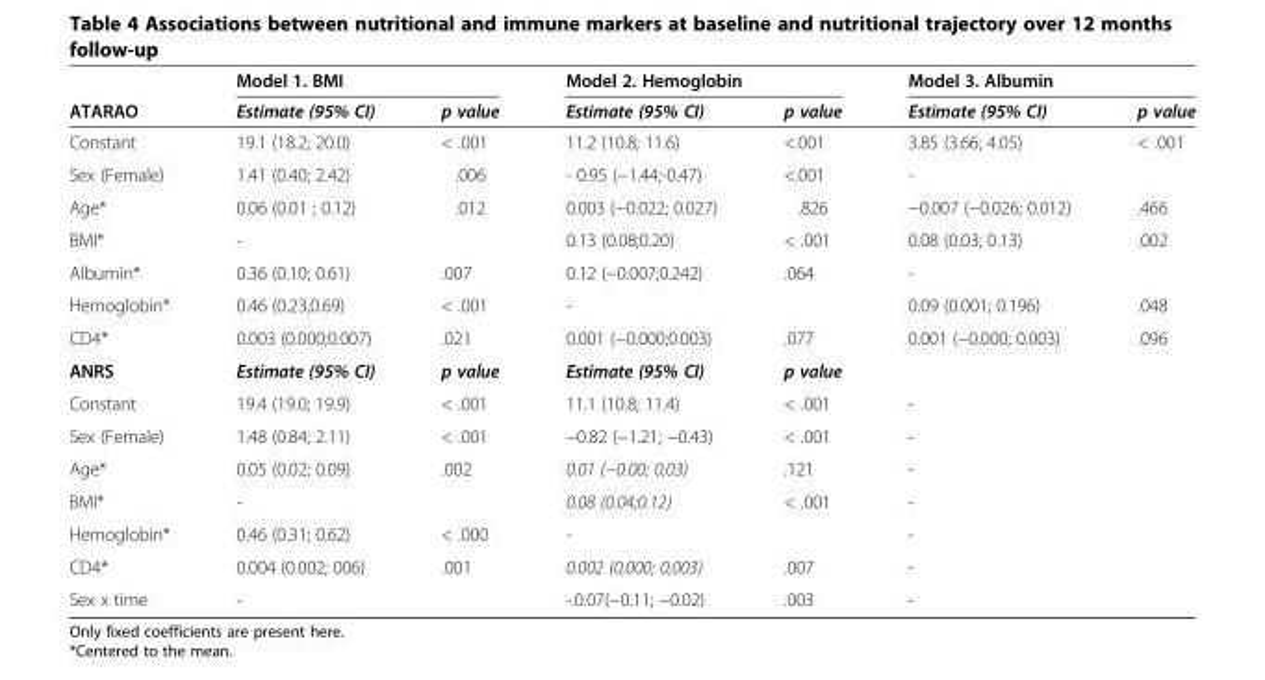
<table><thead><tr><td rowspan="2">ATARAO</td><td colspan="2">Model 1. BMI</td><td colspan="2">Model 2. Hemoglobin</td><td colspan="2">Model 3. Albumin</td></tr><tr><td>Estimate (95% CI)</td><td>p value</td><td>Estimate (95% CI)</td><td>p value</td><td>Estimate (95% CI)</td><td>p value</td></tr></thead><tbody><tr><td>Constant</td><td>19.1 (18.2; 20.0)</td><td>&lt; .001</td><td>11.2 (10.8; 11.6)</td><td>&lt;.001</td><td>3.85 (3.66; 4.05)</td><td>&lt; .001</td></tr><tr><td>Sex (Female)</td><td>1.41 (0.40; 2.42)</td><td>.006</td><td>- 0.95 (−1.44;-0.47)</td><td>&lt;.001</td><td>-</td><td></td></tr><tr><td>Age*</td><td>0.06 (0.01 ; 0.12)</td><td>.012</td><td>0.003 (−0.022; 0.027)</td><td>.826</td><td>−0.007 (−0.026; 0.012)</td><td>.466</td></tr><tr><td>BMI*</td><td>-</td><td></td><td>0.13 (0.08;0.20)</td><td>&lt; .001</td><td>0.08 (0.03; 0.13)</td><td>.002</td></tr><tr><td>Albumin*</td><td>0.36 (0.10; 0.61)</td><td>.007</td><td>0.12 (−0.007;0.242)</td><td>.064</td><td>-</td><td></td></tr><tr><td>Hemoglobin*</td><td>0.46 (0.23,0.69)</td><td>&lt; .001</td><td>-</td><td></td><td>0.09 (0.001; 0.196)</td><td>.048</td></tr><tr><td>CD4*</td><td>0.003 (0.000;0.007)</td><td>.021</td><td>0.001 (−0.000;0.003)</td><td>.077</td><td>0.001 (−0.000; 0.003)</td><td>.096</td></tr><tr><td>ANRS</td><td>Estimate (95% CI)</td><td>p value</td><td>Estimate (95% CI)</td><td>p value</td><td></td><td></td></tr><tr><td>Constant</td><td>19.4 (19.0; 19.9)</td><td>&lt; .001</td><td>11.1 (10.8; 11.4)</td><td>&lt; .001</td><td>-</td><td></td></tr><tr><td>Sex (Female)</td><td>1.48 (0.84; 2.11)</td><td>&lt; .001</td><td>−0.82 (−1.21; −0.43)</td><td>&lt; .001</td><td>-</td><td></td></tr><tr><td>Age*</td><td>0.05 (0.02; 0.09)</td><td>.002</td><td>0.01 (−0.00; 0,03)</td><td>.121</td><td>-</td><td></td></tr><tr><td>BMI*</td><td>-</td><td></td><td>0.08 (0.04;0.12)</td><td>&lt; .001</td><td>-</td><td></td></tr><tr><td>Hemoglobin*</td><td>0.46 (0.31; 0.62)</td><td>&lt; .000</td><td>-</td><td></td><td>-</td><td></td></tr><tr><td>CD4*</td><td>0.004 (0.002; 006)</td><td>.001</td><td>0.002 (0,000; 0,003)</td><td>.007</td><td>-</td><td></td></tr><tr><td>Sex x time</td><td>-</td><td></td><td>-.0.07(−0.11; −0.02)</td><td>.003</td><td>-</td><td></td></tr></tbody></table>